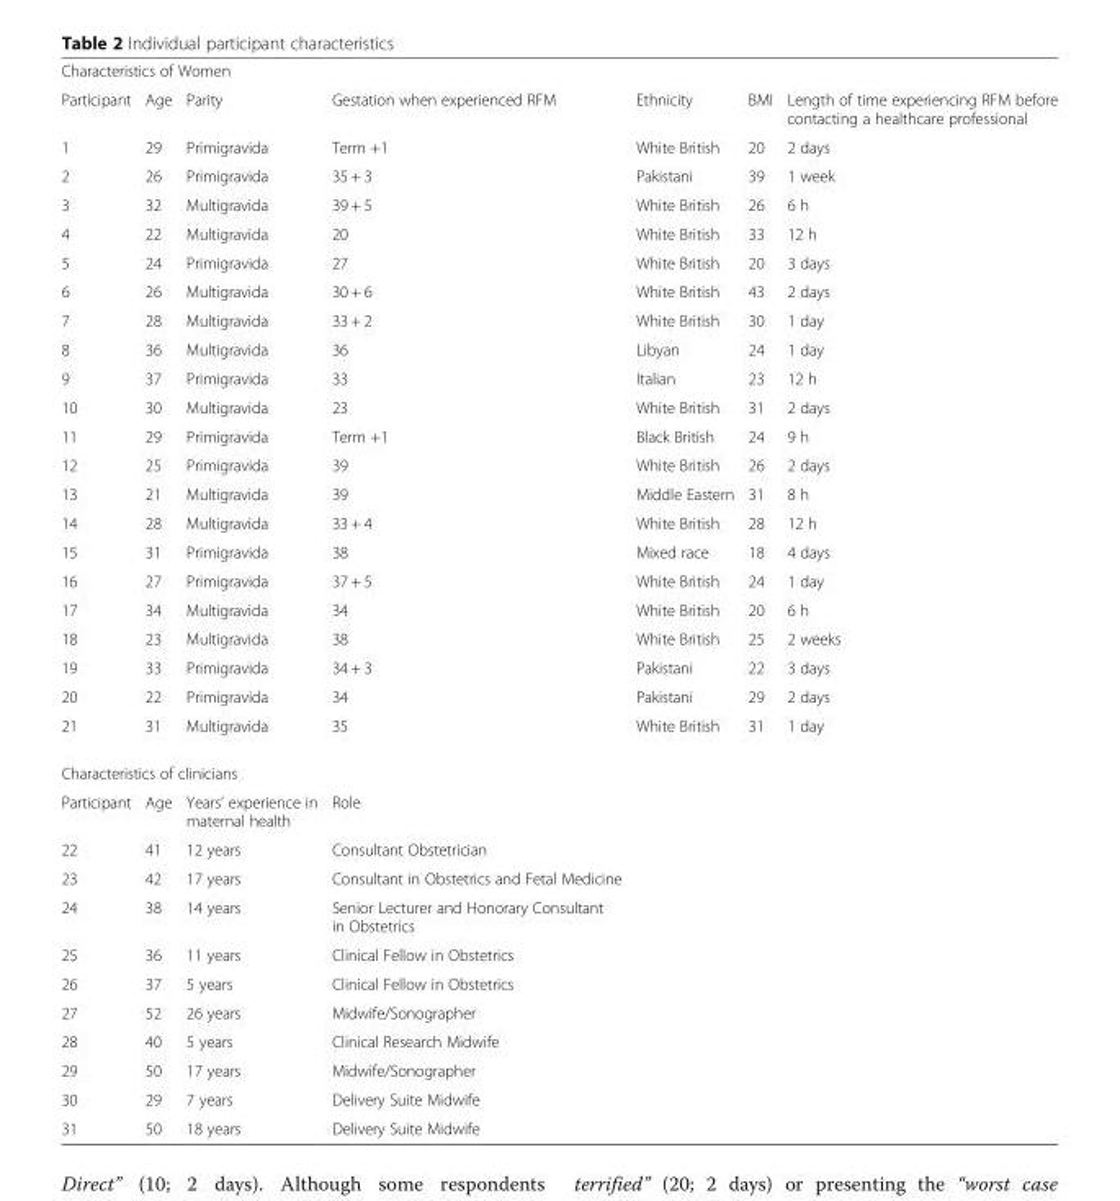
<table><tbody><tr><td colspan="7">Characteristics of Women</td></tr><tr><td>Participant</td><td>Age</td><td>Parity</td><td>Gestation when experienced RFM</td><td>Ethnicity</td><td>BMI</td><td>Length of time experiencing RFM before contacting a healthcare professional</td></tr><tr><td>1</td><td>29</td><td>Primigravida</td><td>Term +1</td><td>White British</td><td>20</td><td>2 days</td></tr><tr><td>2</td><td>26</td><td>Primigravida</td><td>35 + 3</td><td>Pakistani</td><td>39</td><td>1 week</td></tr><tr><td>3</td><td>32</td><td>Multigravida</td><td>39 + 5</td><td>White British</td><td>26</td><td>6 h</td></tr><tr><td>4</td><td>22</td><td>Multigravida</td><td>20</td><td>White British</td><td>33</td><td>12 h</td></tr><tr><td>5</td><td>24</td><td>Primigravida</td><td>27</td><td>White British</td><td>20</td><td>3 days</td></tr><tr><td>6</td><td>26</td><td>Multigravida</td><td>30 + 6</td><td>White British</td><td>43</td><td>2 days</td></tr><tr><td>7</td><td>28</td><td>Multigravida</td><td>33 + 2</td><td>White British</td><td>30</td><td>1 day</td></tr><tr><td>8</td><td>36</td><td>Multigravida</td><td>36</td><td>Libyan</td><td>24</td><td>1 day</td></tr><tr><td>9</td><td>37</td><td>Primigravida</td><td>33</td><td>Italian</td><td>23</td><td>12 h</td></tr><tr><td>10</td><td>30</td><td>Multigravida</td><td>23</td><td>White British</td><td>31</td><td>2 days</td></tr><tr><td>11</td><td>29</td><td>Primigravida</td><td>Term +1</td><td>Black British</td><td>24</td><td>9 h</td></tr><tr><td>12</td><td>25</td><td>Primigravida</td><td>39</td><td>White British</td><td>26</td><td>2 days</td></tr><tr><td>13</td><td>21</td><td>Multigravida</td><td>39</td><td>Middle Eastern</td><td>31</td><td>8 h</td></tr><tr><td>14</td><td>28</td><td>Multigravida</td><td>33 + 4</td><td>White British</td><td>28</td><td>12 h</td></tr><tr><td>15</td><td>31</td><td>Primigravida</td><td>38</td><td>Mixed race</td><td>18</td><td>4 days</td></tr><tr><td>16</td><td>27</td><td>Primigravida</td><td>37 + 5</td><td>White British</td><td>24</td><td>1 day</td></tr><tr><td>17</td><td>34</td><td>Multigravida</td><td>34</td><td>White British</td><td>20</td><td>6 h</td></tr><tr><td>18</td><td>23</td><td>Multigravida</td><td>38</td><td>White British</td><td>25</td><td>2 weeks</td></tr><tr><td>19</td><td>33</td><td>Primigravida</td><td>34 + 3</td><td>Pakistani</td><td>22</td><td>3 days</td></tr><tr><td>20</td><td>22</td><td>Primigravida</td><td>34</td><td>Pakistani</td><td>29</td><td>2 days</td></tr><tr><td>21</td><td>31</td><td>Multigravida</td><td>35</td><td>White British</td><td>31</td><td>1 day</td></tr><tr><td colspan="7">Characteristics of clinicians</td></tr><tr><td>Participant</td><td>Age</td><td>Years’ experience in maternal health</td><td>Role</td><td rowspan="11" colspan="3"></td></tr><tr><td>22</td><td>41</td><td>12 years</td><td>Consultant Obstetrician</td></tr><tr><td>23</td><td>42</td><td>17 years</td><td>Consultant in Obstetrics and Fetal Medicine</td></tr><tr><td>24</td><td>38</td><td>14 years</td><td>Senior Lecturer and Honorary Consultant in Obstetrics</td></tr><tr><td>25</td><td>36</td><td>11 years</td><td>Clinical Fellow in Obstetrics</td></tr><tr><td>26</td><td>37</td><td>5 years</td><td>Clinical Fellow in Obstetrics</td></tr><tr><td>27</td><td>52</td><td>26 years</td><td>Midwife/Sonographer</td></tr><tr><td>28</td><td>40</td><td>5 years</td><td>Clinical Research Midwife</td></tr><tr><td>29</td><td>50</td><td>17 years</td><td>Midwife/Sonographer</td></tr><tr><td>30</td><td>29</td><td>7 years</td><td>Delivery Suite Midwife</td></tr><tr><td>31</td><td>50</td><td>18 years</td><td>Delivery Suite Midwife</td></tr></tbody></table>